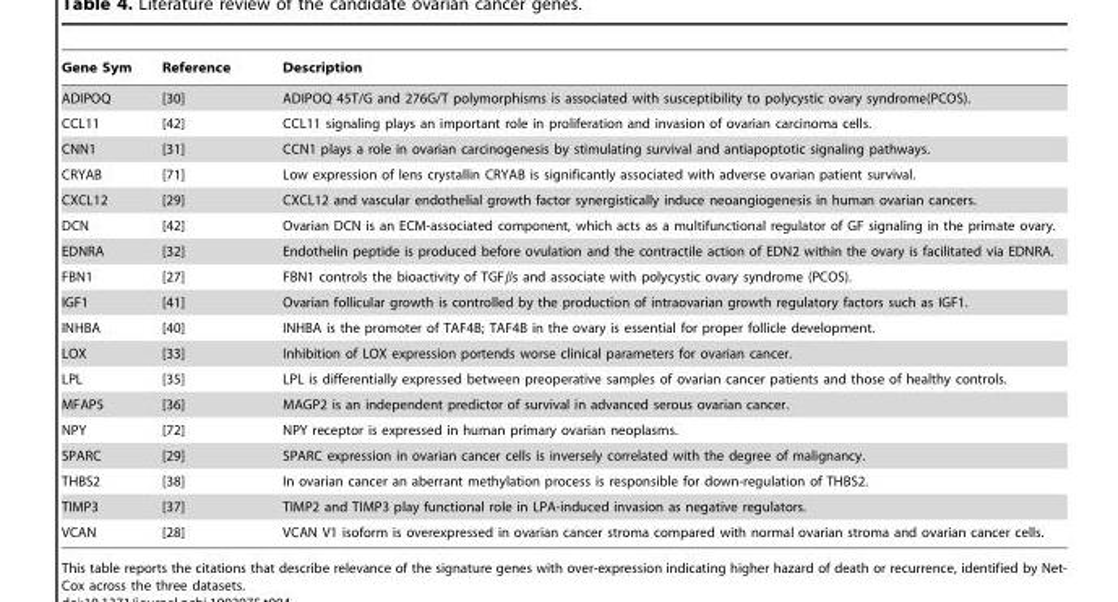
<table><thead><tr><td>Gene Sym</td><td>Reference</td><td>Description</td></tr></thead><tbody><tr><td>ADIPOQ</td><td>[30]</td><td>ADIPOQ 45T/G and 276G/T polymorphisms is associated with susceptibility to polycystic ovary syndrome(PCOS).</td></tr><tr><td>CCL11</td><td>[42]</td><td>CCL11 signaling plays an important role in proliferation and invasion of ovarian carcinoma cells.</td></tr><tr><td>CNN1</td><td>[31]</td><td>CCN1 plays a role in ovarian carcinogenesis by stimulating survival and antiapoptotic signaling pathways.</td></tr><tr><td>CRYAB</td><td>[71]</td><td>Low expression of lens crystallin CRYAB is significantly associated with adverse ovarian patient survival.</td></tr><tr><td>CXCL12</td><td>[29]</td><td>CXCL12 and vascular endothelial growth factor synergistically induce neoangiogenesis in human ovarian cancers.</td></tr><tr><td>DCN</td><td>[42]</td><td>Ovarian DCN is an ECM-associated component, which acts as a multifunctional regulator of GF signaling in the primate ovary.</td></tr><tr><td>EDNRA</td><td>[32]</td><td>Endothelin peptide is produced before ovulation and the contractile action of EDN2 within the ovary is facilitated via EDNRA.</td></tr><tr><td>FBN1</td><td>[27]</td><td>FBN1 controls the bioactivity of TGFbs and associate with polycystic ovary syndrome (PCOS).</td></tr><tr><td>IGF1</td><td>[41]</td><td>Ovarian follicular growth is controlled by the production of intraovarian growth regulatory factors such as IGF1.</td></tr><tr><td>INHBA</td><td>[40]</td><td>INHBA is the promoter of TAF4B; TAF4B in the ovary is essential for proper follicle development.</td></tr><tr><td>LOX</td><td>[33]</td><td>Inhibition of LOX expression portends worse clinical parameters for ovarian cancer.</td></tr><tr><td>LPL</td><td>[35]</td><td>LPL is differentially expressed between preoperative samples of ovarian cancer patients and those of healthy controls.</td></tr><tr><td>MFAP5</td><td>[36]</td><td>MAGP2 is an independent predictor of survival in advanced serous ovarian cancer.</td></tr><tr><td>NPY</td><td>[72]</td><td>NPY receptor is expressed in human primary ovarian neoplasms.</td></tr><tr><td>SPARC</td><td>[29]</td><td>SPARC expression in ovarian cancer cells is inversely correlated with the degree of malignancy.</td></tr><tr><td>THBS2</td><td>[38]</td><td>In ovarian cancer an aberrant methylation process is responsible for down-regulation of THBS2.</td></tr><tr><td>TIMP3</td><td>[37]</td><td>TIMP2 and TIMP3 play functional role in LPA-induced invasion as negative regulators.</td></tr><tr><td>VCAN</td><td>[28]</td><td>VCAN V1 isoform is overexpressed in ovarian cancer stroma compared with normal ovarian stroma and ovarian cancer cells.</td></tr></tbody></table>